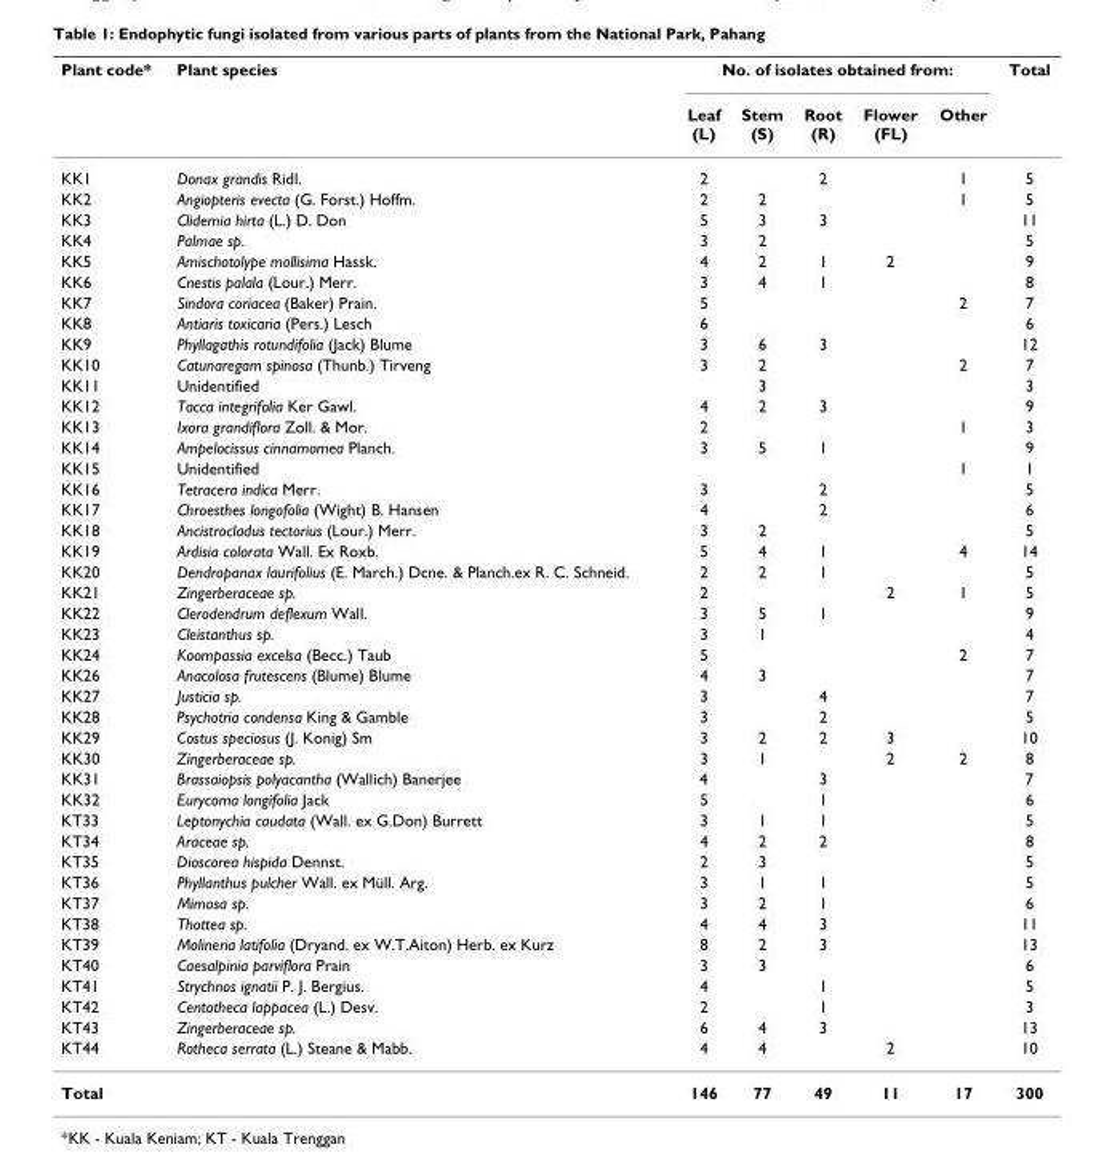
<table><thead><tr><td rowspan="2">Plant code*</td><td rowspan="2">Plant species</td><td colspan="5">No. of isolates obtained from:</td><td rowspan="2">Total</td></tr><tr><td>Leaf (L)</td><td>Stem (S)</td><td>Root (R)</td><td>Flower (FL)</td><td>Other</td></tr></thead><tbody><tr><td>KK1</td><td>Donax grandis Ridl.</td><td>2</td><td></td><td>2</td><td></td><td>1</td><td>5</td></tr><tr><td>KK2</td><td>Angiopteris evecta (G. Forst.) Hoffm.</td><td>2</td><td>2</td><td></td><td></td><td>1</td><td>5</td></tr><tr><td>KK3</td><td>Clidemia hirta (L.) D. Don</td><td>5</td><td>3</td><td>3</td><td></td><td></td><td>11</td></tr><tr><td>KK4</td><td>Palmae sp.</td><td>3</td><td>2</td><td></td><td></td><td></td><td>5</td></tr><tr><td>KK5</td><td>Amischotolype mollisima Hassk.</td><td>4</td><td>2</td><td>1</td><td>2</td><td></td><td>9</td></tr><tr><td>KK6</td><td>Cnestis palala (Lour.) Merr.</td><td>3</td><td>4</td><td>1</td><td></td><td></td><td>8</td></tr><tr><td>KK7</td><td>Sindora coriacea (Baker) Prain.</td><td>5</td><td></td><td></td><td></td><td>2</td><td>7</td></tr><tr><td>KK8</td><td>Antiaris toxicaria (Pers.) Lesch</td><td>6</td><td></td><td></td><td></td><td></td><td>6</td></tr><tr><td>KK9</td><td>Phyllagathis rotundifolia (Jack) Blume</td><td>3</td><td>6</td><td>3</td><td></td><td></td><td>12</td></tr><tr><td>KK10</td><td>Catunaregam spinosa (Thunb.) Tirveng</td><td>3</td><td>2</td><td></td><td></td><td>2</td><td>7</td></tr><tr><td>KK11</td><td>Unidentified</td><td></td><td>3</td><td></td><td></td><td></td><td>3</td></tr><tr><td>KK12</td><td>Tacca integrifolia Ker Gawl.</td><td>4</td><td>2</td><td>3</td><td></td><td></td><td>9</td></tr><tr><td>KK13</td><td>Ixora grandiflora Zoll. &amp; Mor.</td><td>2</td><td></td><td></td><td></td><td>1</td><td>3</td></tr><tr><td>KK14</td><td>Ampelocissus cinnamomea Planch.</td><td>3</td><td>5</td><td>1</td><td></td><td></td><td>9</td></tr><tr><td>KK15</td><td>Unidentified</td><td></td><td></td><td></td><td></td><td>1</td><td>1</td></tr><tr><td>KK16</td><td>Tetracera indica Merr.</td><td>3</td><td></td><td>2</td><td></td><td></td><td>5</td></tr><tr><td>KK17</td><td>Chroesthes longofolia (Wight) B. Hansen</td><td>4</td><td></td><td>2</td><td></td><td></td><td>6</td></tr><tr><td>KK18</td><td>Ancistrocladus tectorius (Lour.) Merr.</td><td>3</td><td>2</td><td></td><td></td><td></td><td>5</td></tr><tr><td>KK19</td><td>Ardisia colorata Wall. Ex Roxb.</td><td>5</td><td>4</td><td>1</td><td></td><td>4</td><td>14</td></tr><tr><td>KK20</td><td>Dendropanax laurifolius (E. March.) Dcne. &amp; Planch.ex R. C. Schneid.</td><td>2</td><td>2</td><td>1</td><td></td><td></td><td>5</td></tr><tr><td>KK21</td><td>Zingerberaceae sp.</td><td>2</td><td></td><td></td><td>2</td><td>1</td><td>5</td></tr><tr><td>KK22</td><td>Clerodendrum deflexum Wall.</td><td>3</td><td>5</td><td>1</td><td></td><td></td><td>9</td></tr><tr><td>KK23</td><td>Cleistanthus sp.</td><td>3</td><td>1</td><td></td><td></td><td></td><td>4</td></tr><tr><td>KK24</td><td>Koompassia excelsa (Becc.) Taub</td><td>5</td><td></td><td></td><td></td><td>2</td><td>7</td></tr><tr><td>KK26</td><td>Anacolosa frutescens (Blume) Blume</td><td>4</td><td>3</td><td></td><td></td><td></td><td>7</td></tr><tr><td>KK27</td><td>Justicia sp.</td><td>3</td><td></td><td>4</td><td></td><td></td><td>7</td></tr><tr><td>KK28</td><td>Psychotria condensa King &amp; Gamble</td><td>3</td><td></td><td>2</td><td></td><td></td><td>5</td></tr><tr><td>KK29</td><td>Costus speciosus (J. Konig) Sm</td><td>3</td><td>2</td><td>2</td><td>3</td><td></td><td>10</td></tr><tr><td>KK30</td><td>Zingerberaceae sp.</td><td>3</td><td>1</td><td></td><td>2</td><td>2</td><td>8</td></tr><tr><td>KK31</td><td>Brassaiopsis polyacantha (Wallich) Banerjee</td><td>4</td><td></td><td>3</td><td></td><td></td><td>7</td></tr><tr><td>KK32</td><td>Eurycoma longifolia Jack</td><td>5</td><td></td><td>1</td><td></td><td></td><td>6</td></tr><tr><td>KT33</td><td>Leptonychia caudata (Wall. ex G.Don) Burrett</td><td>3</td><td>1</td><td>1</td><td></td><td></td><td>5</td></tr><tr><td>KT34</td><td>Araceae sp.</td><td>4</td><td>2</td><td>2</td><td></td><td></td><td>8</td></tr><tr><td>KT35</td><td>Dioscorea hispida Dennst.</td><td>2</td><td>3</td><td></td><td></td><td></td><td>5</td></tr><tr><td>KT36</td><td>Phyllanthus pulcher Wall. ex Müll. Arg.</td><td>3</td><td>1</td><td>1</td><td></td><td></td><td>5</td></tr><tr><td>KT37</td><td>Mimosa sp.</td><td>3</td><td>2</td><td>1</td><td></td><td></td><td>6</td></tr><tr><td>KT38</td><td>Thottea sp.</td><td>4</td><td>4</td><td>3</td><td></td><td></td><td>11</td></tr><tr><td>KT39</td><td>Molineria latifolia (Dryand. ex W.T.Aiton) Herb. ex Kurz</td><td>8</td><td>2</td><td>3</td><td></td><td></td><td>13</td></tr><tr><td>KT40</td><td>Caesalpinia parviflora Prain</td><td>3</td><td>3</td><td></td><td></td><td></td><td>6</td></tr><tr><td>KT41</td><td>Strychnos ignatii P. J. Bergius.</td><td>4</td><td></td><td>1</td><td></td><td></td><td>5</td></tr><tr><td>KT42</td><td>Centotheca lappacea (L.) Desv.</td><td>2</td><td></td><td>1</td><td></td><td></td><td>3</td></tr><tr><td>KT43</td><td>Zingerberaceae sp.</td><td>6</td><td>4</td><td>3</td><td></td><td></td><td>13</td></tr><tr><td>KT44</td><td>Rotheca serrata (L.) Steane &amp; Mabb.</td><td>4</td><td>4</td><td></td><td>2</td><td></td><td>10</td></tr><tr><td>Total</td><td></td><td>146</td><td>77</td><td>49</td><td>11</td><td>17</td><td>300</td></tr></tbody></table>